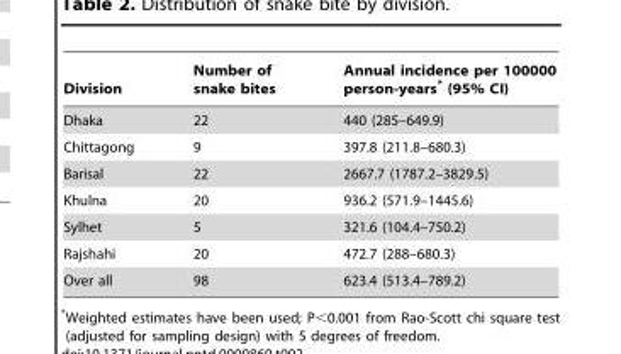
<table><thead><tr><td>Division</td><td>Number of snake bites</td><td>Annual incidence per 100000 person-years* (95% CI)</td></tr></thead><tbody><tr><td>Dhaka</td><td>22</td><td>440 (285–649.9)</td></tr><tr><td>Chittagong</td><td>9</td><td>397.8 (211.8–680.3)</td></tr><tr><td>Barisal</td><td>22</td><td>2667.7 (1787.2–3829.5)</td></tr><tr><td>Khulna</td><td>20</td><td>936.2 (571.9–1445.6)</td></tr><tr><td>Sylhet</td><td>5</td><td>321.6 (104.4–750.2)</td></tr><tr><td>Rajshahi</td><td>20</td><td>472.7 (288–680.3)</td></tr><tr><td>Over all</td><td>98</td><td>623.4 (513.4–789.2)</td></tr></tbody></table>